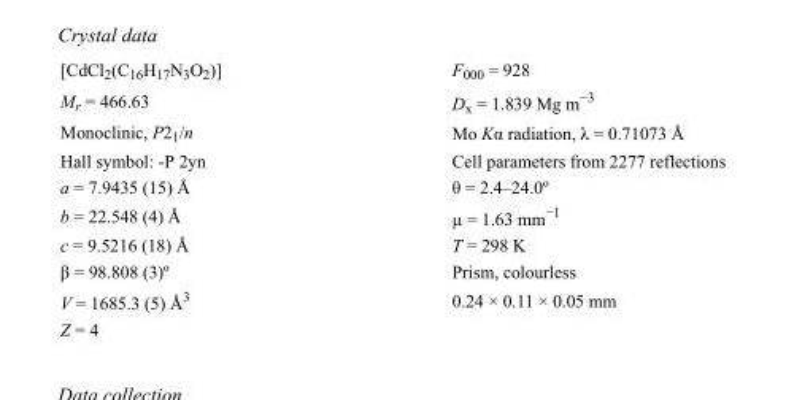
<table><tbody><tr><td>[CdCl<sub>2</sub>(C<sub>16</sub>H<sub>17</sub>N<sub>3</sub>O<sub>2</sub>)]</td><td>F000 = 928</td></tr><tr><td>M<sub>r</sub> = 466.63</td><td>D<sub>x</sub> = 1.839 Mg m<sup>−3</sup></td></tr><tr><td>Monoclinic, P2<sub>1</sub>/n</td><td>Mo Kα radiation, λ = 0.71073 Å</td></tr><tr><td>Hall symbol: -P 2yn</td><td>Cell parameters from 2277 reflections</td></tr><tr><td>a = 7.9435 (15) Å</td><td>θ = 2.4–24.0º</td></tr><tr><td>b = 22.548 (4) Å</td><td>µ = 1.63 mm<sup>−1</sup></td></tr><tr><td>c = 9.5216 (18) Å</td><td>T = 298 K</td></tr><tr><td>β = 98.808 (3)º</td><td>Prism, colourless</td></tr><tr><td>V = 1685.3 (5) Å<sup>3</sup></td><td>0.24 × 0.11 × 0.05 mm</td></tr><tr><td>Z = 4</td><td></td></tr></tbody></table>